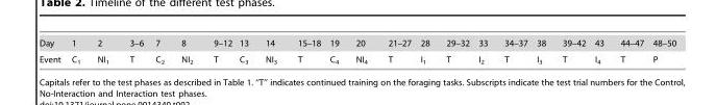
<table><tbody><tr><td>Day</td><td>1</td><td>2</td><td>3–6</td><td>7</td><td>8</td><td>9–12</td><td>13</td><td>14</td><td>15–18</td><td>19</td><td>20</td><td>21–27</td><td>28</td><td>29–32</td><td>33</td><td>34–37</td><td>38</td><td>39–42</td><td>43</td><td>44–47</td><td>48–50</td></tr><tr><td>Event</td><td>C<sub>1</sub></td><td>NI<sub>1</sub></td><td>T</td><td>C<sub>2</sub></td><td>NI<sub>2</sub></td><td>T</td><td>C<sub>3</sub></td><td>NI<sub>3</sub></td><td>T</td><td>C<sub>4</sub></td><td>NI<sub>4</sub></td><td>T</td><td>I<sub>1</sub></td><td>T</td><td>I<sub>2</sub></td><td>T</td><td>I<sub>3</sub></td><td>T</td><td>I<sub>4</sub></td><td>T</td><td>P</td></tr></tbody></table>